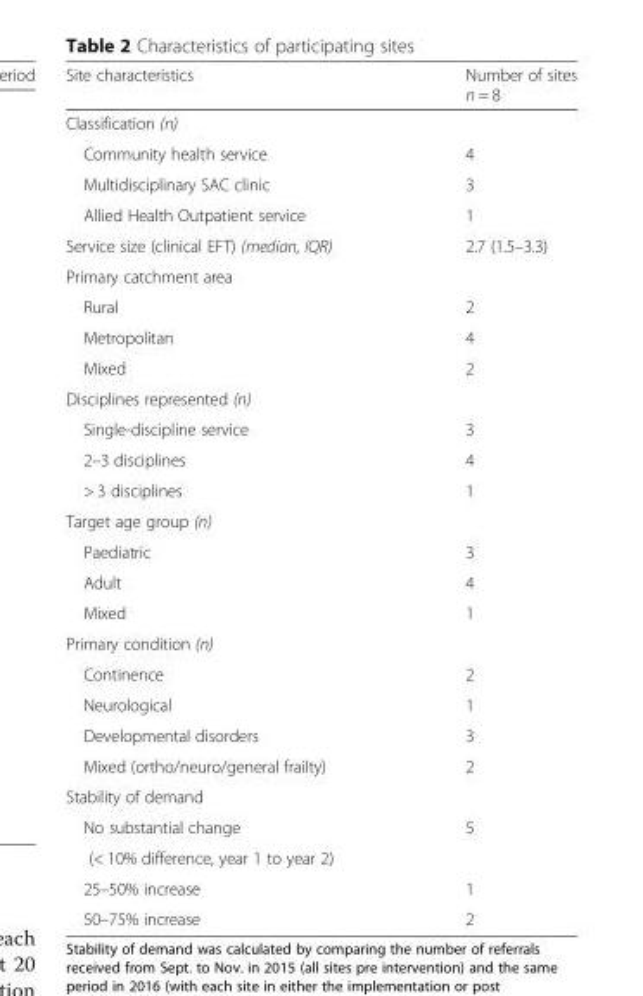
<table><thead><tr><td>Site characteristics</td><td>Number of sites n = 8</td></tr></thead><tbody><tr><td colspan="2">Classification (n)</td></tr><tr><td>Community health service</td><td>4</td></tr><tr><td>Multidisciplinary SAC clinic</td><td>3</td></tr><tr><td>Allied Health Outpatient service</td><td>1</td></tr><tr><td>Service size (clinical EFT) (median, IQR)</td><td>2.7 (1.5–3.3)</td></tr><tr><td colspan="2">Primary catchment area</td></tr><tr><td>Rural</td><td>2</td></tr><tr><td>Metropolitan</td><td>4</td></tr><tr><td>Mixed</td><td>2</td></tr><tr><td colspan="2">Disciplines represented (n)</td></tr><tr><td>Single-discipline service</td><td>3</td></tr><tr><td>2–3 disciplines</td><td>4</td></tr><tr><td>&gt; 3 disciplines</td><td>1</td></tr><tr><td colspan="2">Target age group (n)</td></tr><tr><td>Paediatric</td><td>3</td></tr><tr><td>Adult</td><td>4</td></tr><tr><td>Mixed</td><td>1</td></tr><tr><td colspan="2">Primary condition (n)</td></tr><tr><td>Continence</td><td>2</td></tr><tr><td>Neurological</td><td>1</td></tr><tr><td>Developmental disorders</td><td>3</td></tr><tr><td>Mixed (ortho/neuro/general frailty)</td><td>2</td></tr><tr><td colspan="2">Stability of demand</td></tr><tr><td>No substantial change</td><td>5</td></tr><tr><td colspan="2">(&lt; 10% difference, year 1 to year 2)</td></tr><tr><td>25–50% increase</td><td>1</td></tr><tr><td>50–75% increase</td><td>2</td></tr></tbody></table>